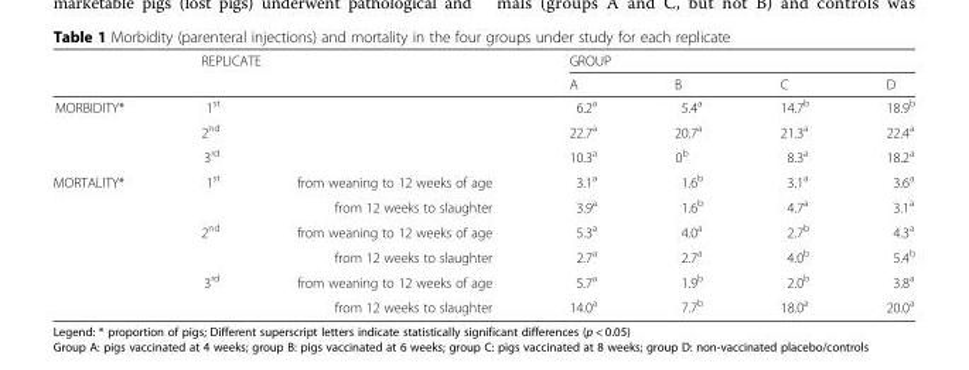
<table><thead><tr><td rowspan="2"></td><td rowspan="2" colspan="2">REPLICATE</td><td colspan="4">GROUP</td></tr><tr><td>A</td><td>B</td><td>C</td><td>D</td></tr></thead><tbody><tr><td rowspan="3">MORBIDITY*</td><td colspan="2">1<sup>st</sup></td><td>6.2<sup>a</sup></td><td>5.4<sup>a</sup></td><td>14.7<sup>b</sup></td><td>18.9<sup>b</sup></td></tr><tr><td colspan="2">2<sup>nd</sup></td><td>22.7<sup>a</sup></td><td>20.7<sup>a</sup></td><td>21.3<sup>a</sup></td><td>22.4<sup>a</sup></td></tr><tr><td colspan="2">3<sup>rd</sup></td><td>10.3<sup>a</sup></td><td>0<sup>b</sup></td><td>8.3<sup>a</sup></td><td>18.2<sup>a</sup></td></tr><tr><td rowspan="6">MORTALITY*</td><td rowspan="2">1<sup>st</sup></td><td>from weaning to 12 weeks of age</td><td>3.1<sup>a</sup></td><td>1.6<sup>b</sup></td><td>3.1<sup>a</sup></td><td>3.6<sup>a</sup></td></tr><tr><td>from 12 weeks to slaughter</td><td>3.9<sup>a</sup></td><td>1.6<sup>b</sup></td><td>4.7<sup>a</sup></td><td>3.1<sup>a</sup></td></tr><tr><td rowspan="2">2<sup>nd</sup></td><td>from weaning to 12 weeks of age</td><td>5.3<sup>a</sup></td><td>4.0<sup>a</sup></td><td>2.7<sup>b</sup></td><td>4.3<sup>a</sup></td></tr><tr><td>from 12 weeks to slaughter</td><td>2.7<sup>a</sup></td><td>2.7<sup>a</sup></td><td>4.0<sup>b</sup></td><td>5.4<sup>b</sup></td></tr><tr><td rowspan="2">3<sup>rd</sup></td><td>from weaning to 12 weeks of age</td><td>5.7<sup>a</sup></td><td>1.9<sup>b</sup></td><td>2.0<sup>b</sup></td><td>3.8<sup>a</sup></td></tr><tr><td>from 12 weeks to slaughter</td><td>14.0<sup>a</sup></td><td>7.7<sup>b</sup></td><td>18.0<sup>a</sup></td><td>20.0<sup>a</sup></td></tr></tbody></table>